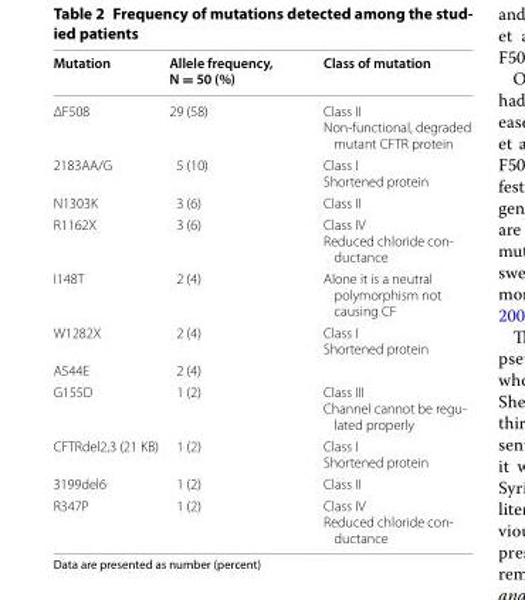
<table><thead><tr><td>Mutation</td><td>Allele frequency, N = 50 (%)</td><td>Class of mutation</td></tr></thead><tbody><tr><td>ΔF508</td><td>29 (58)</td><td>Class II Non‑functional, degraded mutant CFTR protein</td></tr><tr><td>2183AA/G</td><td>5 (10)</td><td>Class I Shortened protein</td></tr><tr><td>N1303K</td><td>3 (6)</td><td>Class II</td></tr><tr><td>R1162X</td><td>3 (6)</td><td>Class IV Reduced chloride con‑ ductance</td></tr><tr><td>I148T</td><td>2 (4)</td><td>Alone it is a neutral polymorphism not causing CF</td></tr><tr><td>W1282X</td><td>2 (4)</td><td>Class I Shortened protein</td></tr><tr><td>A544E</td><td>2 (4)</td><td></td></tr><tr><td>G155D</td><td>1 (2)</td><td>Class III Channel cannot be regu‑ lated properly</td></tr><tr><td>CFTRdel2,3 (21 KB)</td><td>1 (2)</td><td>Class I Shortened protein</td></tr><tr><td>3199del6</td><td>1 (2)</td><td>Class II</td></tr><tr><td>R347P</td><td>1 (2)</td><td>Class IV Reduced chloride con‑ ductance</td></tr></tbody></table>